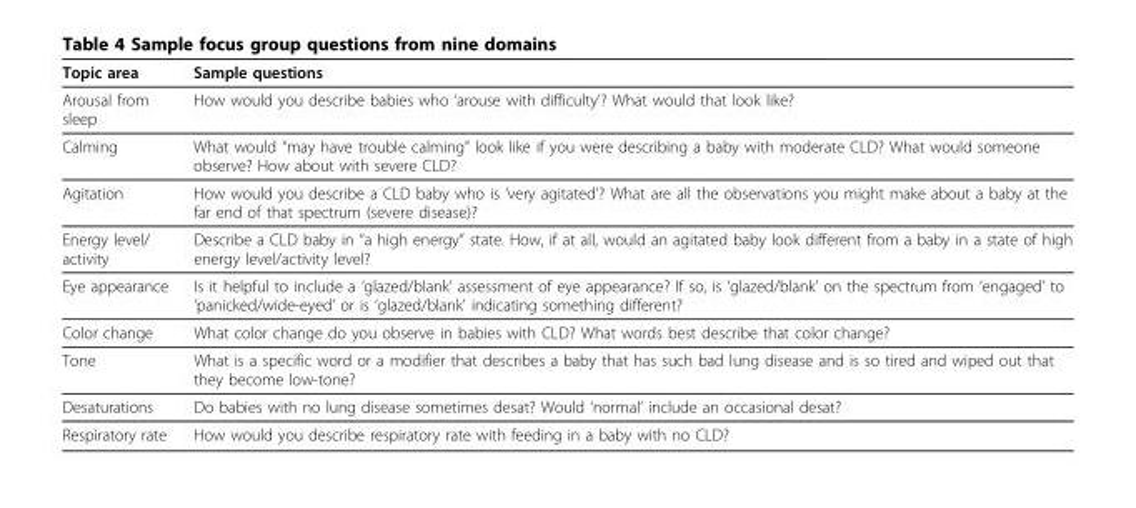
<table><thead><tr><td>Topic area</td><td>Sample questions</td></tr></thead><tbody><tr><td>Arousal from sleep</td><td>How would you describe babies who ‘arouse with difficulty’? What would that look like?</td></tr><tr><td>Calming</td><td>What would “may have trouble calming” look like if you were describing a baby with moderate CLD? What would someone observe? How about with severe CLD?</td></tr><tr><td>Agitation</td><td>How would you describe a CLD baby who is ‘very agitated’? What are all the observations you might make about a baby at the far end of that spectrum (severe disease)?</td></tr><tr><td>Energy level/ activity</td><td>Describe a CLD baby in “a high energy” state. How, if at all, would an agitated baby look different from a baby in a state of high energy level/activity level?</td></tr><tr><td>Eye appearance</td><td>Is it helpful to include a ‘glazed/blank’ assessment of eye appearance? If so, is ‘glazed/blank’ on the spectrum from ‘engaged’ to ‘panicked/wide-eyed’ or is ‘glazed/blank’ indicating something different?</td></tr><tr><td>Color change</td><td>What color change do you observe in babies with CLD? What words best describe that color change?</td></tr><tr><td>Tone</td><td>What is a specific word or a modifier that describes a baby that has such bad lung disease and is so tired and wiped out that they become low-tone?</td></tr><tr><td>Desaturations</td><td>Do babies with no lung disease sometimes desat? Would ‘normal’ include an occasional desat?</td></tr><tr><td>Respiratory rate</td><td>How would you describe respiratory rate with feeding in a baby with no CLD?</td></tr></tbody></table>